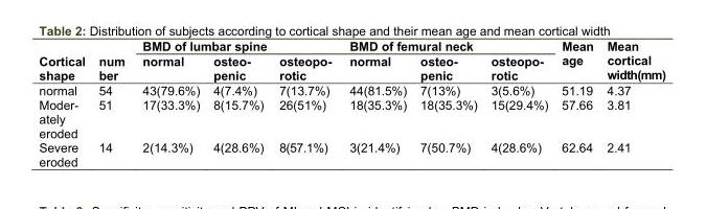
<table><thead><tr><td rowspan="2">Cortical shape</td><td rowspan="2">num ber</td><td colspan="3">BMD of lumbar spine</td><td colspan="3">BMD of femural neck</td><td rowspan="2">Mean age</td><td rowspan="2">Mean cortical width(mm)</td></tr><tr><td>normal</td><td>osteo- penic</td><td>osteopo- rotic</td><td>normal</td><td>osteo- penic</td><td>osteopo- rotic</td></tr></thead><tbody><tr><td>normal</td><td>54</td><td>43(79.6%)</td><td>4(7.4%)</td><td>7(13.7%)</td><td>44(81.5%)</td><td>7(13%)</td><td>3(5.6%)</td><td>51.19</td><td>4.37</td></tr><tr><td>Moder- ately eroded</td><td>51</td><td>17(33.3%)</td><td>8(15.7%)</td><td>26(51%)</td><td>18(35.3%)</td><td>18(35.3%)</td><td>15(29.4%)</td><td>57.66</td><td>3.81</td></tr><tr><td>Severe eroded</td><td>14</td><td>2(14.3%)</td><td>4(28.6%)</td><td>8(57.1%)</td><td>3(21.4%)</td><td>7(50.7%)</td><td>4(28.6%)</td><td>62.64</td><td>2.41</td></tr></tbody></table>